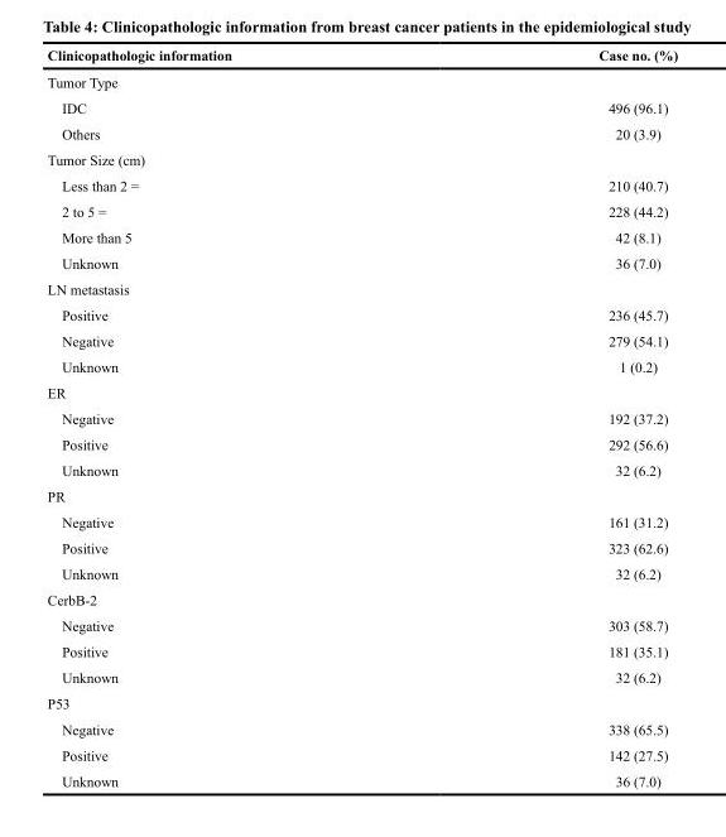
<table><thead><tr><td>Clinicopathologic information</td><td>Case no. (%)</td></tr></thead><tbody><tr><td colspan="2">Tumor Type</td></tr><tr><td>IDC</td><td>496 (96.1)</td></tr><tr><td>Others</td><td>20 (3.9)</td></tr><tr><td colspan="2">Tumor Size (cm)</td></tr><tr><td>Less than 2 =</td><td>210 (40.7)</td></tr><tr><td>2 to 5 =</td><td>228 (44.2)</td></tr><tr><td>More than 5</td><td>42 (8.1)</td></tr><tr><td>Unknown</td><td>36 (7.0)</td></tr><tr><td colspan="2">LN metastasis</td></tr><tr><td>Positive</td><td>236 (45.7)</td></tr><tr><td>Negative</td><td>279 (54.1)</td></tr><tr><td>Unknown</td><td>1 (0.2)</td></tr><tr><td colspan="2">ER</td></tr><tr><td>Negative</td><td>192 (37.2)</td></tr><tr><td>Positive</td><td>292 (56.6)</td></tr><tr><td>Unknown</td><td>32 (6.2)</td></tr><tr><td colspan="2">PR</td></tr><tr><td>Negative</td><td>161 (31.2)</td></tr><tr><td>Positive</td><td>323 (62.6)</td></tr><tr><td>Unknown</td><td>32 (6.2)</td></tr><tr><td colspan="2">CerbB-2</td></tr><tr><td>Negative</td><td>303 (58.7)</td></tr><tr><td>Positive</td><td>181 (35.1)</td></tr><tr><td>Unknown</td><td>32 (6.2)</td></tr><tr><td colspan="2">P53</td></tr><tr><td>Negative</td><td>338 (65.5)</td></tr><tr><td>Positive</td><td>142 (27.5)</td></tr><tr><td>Unknown</td><td>36 (7.0)</td></tr></tbody></table>